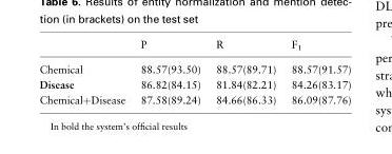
<table><thead><tr><td></td><td>P</td><td>R</td><td>F<sub>1</sub></td></tr></thead><tbody><tr><td>Chemical</td><td>88.57(93.50)</td><td>88.57(89.71)</td><td>88.57(91.57)</td></tr><tr><td>Disease</td><td>86.82(84.15)</td><td>81.84(82.21)</td><td>84.26(83.17)</td></tr><tr><td>Chemical+Disease</td><td>87.58(89.24)</td><td>84.66(86.33)</td><td>86.09(87.76)</td></tr></tbody></table>